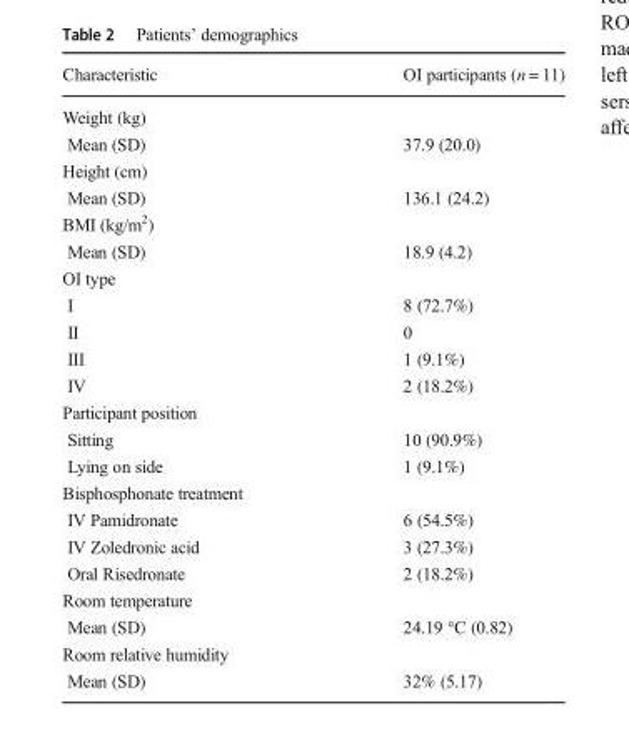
<table><thead><tr><td>Characteristic</td><td>OI participants (n = 11)</td></tr></thead><tbody><tr><td colspan="2">Weight (kg)</td></tr><tr><td>Mean (SD)</td><td>37.9 (20.0)</td></tr><tr><td colspan="2">Height (cm)</td></tr><tr><td>Mean (SD)</td><td>136.1 (24.2)</td></tr><tr><td colspan="2">BMI (kg/m<sup>2</sup>)</td></tr><tr><td>Mean (SD)</td><td>18.9 (4.2)</td></tr><tr><td colspan="2">OI type</td></tr><tr><td>I</td><td>8 (72.7%)</td></tr><tr><td>II</td><td>0</td></tr><tr><td>III</td><td>1 (9.1%)</td></tr><tr><td>IV</td><td>2 (18.2%)</td></tr><tr><td colspan="2">Participant position</td></tr><tr><td>Sitting</td><td>10 (90.9%)</td></tr><tr><td>Lying on side</td><td>1 (9.1%)</td></tr><tr><td colspan="2">Bisphosphonate treatment</td></tr><tr><td>IV Pamidronate</td><td>6 (54.5%)</td></tr><tr><td>IV Zoledronic acid</td><td>3 (27.3%)</td></tr><tr><td>Oral Risedronate</td><td>2 (18.2%)</td></tr><tr><td colspan="2">Room temperature</td></tr><tr><td>Mean (SD)</td><td>24.19 °C (0.82)</td></tr><tr><td colspan="2">Room relative humidity</td></tr><tr><td>Mean (SD)</td><td>32% (5.17)</td></tr></tbody></table>